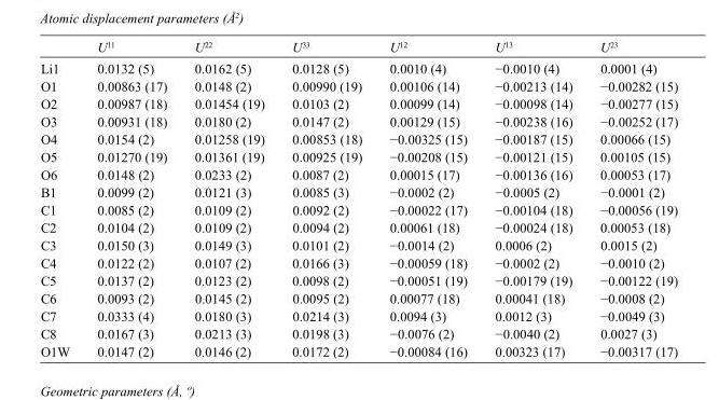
<table><thead><tr><td></td><td>U<sup>11</sup></td><td>U<sup>22</sup></td><td>U<sup>33</sup></td><td>U<sup>12</sup></td><td>U<sup>13</sup></td><td>U<sup>23</sup></td></tr></thead><tbody><tr><td>Li1</td><td>0.0132 (5)</td><td>0.0162 (5)</td><td>0.0128 (5)</td><td>0.0010 (4)</td><td>−0.0010 (4)</td><td>0.0001 (4)</td></tr><tr><td>O1</td><td>0.00863 (17)</td><td>0.0148 (2)</td><td>0.00990 (19)</td><td>0.00106 (14)</td><td>−0.00213 (14)</td><td>−0.00282 (15)</td></tr><tr><td>O2</td><td>0.00987 (18)</td><td>0.01454 (19)</td><td>0.0103 (2)</td><td>0.00099 (14)</td><td>−0.00098 (14)</td><td>−0.00277 (15)</td></tr><tr><td>O3</td><td>0.00931 (18)</td><td>0.0180 (2)</td><td>0.0147 (2)</td><td>0.00129 (15)</td><td>−0.00238 (16)</td><td>−0.00252 (17)</td></tr><tr><td>O4</td><td>0.0154 (2)</td><td>0.01258 (19)</td><td>0.00853 (18)</td><td>−0.00325 (15)</td><td>−0.00187 (15)</td><td>0.00066 (15)</td></tr><tr><td>O5</td><td>0.01270 (19)</td><td>0.01361 (19)</td><td>0.00925 (19)</td><td>−0.00208 (15)</td><td>−0.00121 (15)</td><td>0.00105 (15)</td></tr><tr><td>O6</td><td>0.0148 (2)</td><td>0.0233 (2)</td><td>0.0087 (2)</td><td>0.00015 (17)</td><td>−0.00136 (16)</td><td>0.00053 (17)</td></tr><tr><td>B1</td><td>0.0099 (2)</td><td>0.0121 (3)</td><td>0.0085 (3)</td><td>−0.0002 (2)</td><td>−0.0005 (2)</td><td>−0.0001 (2)</td></tr><tr><td>C1</td><td>0.0085 (2)</td><td>0.0109 (2)</td><td>0.0092 (2)</td><td>−0.00022 (17)</td><td>−0.00104 (18)</td><td>−0.00056 (19)</td></tr><tr><td>C2</td><td>0.0104 (2)</td><td>0.0109 (2)</td><td>0.0094 (2)</td><td>0.00061 (18)</td><td>−0.00024 (18)</td><td>0.00053 (18)</td></tr><tr><td>C3</td><td>0.0150 (3)</td><td>0.0149 (3)</td><td>0.0101 (2)</td><td>−0.0014 (2)</td><td>0.0006 (2)</td><td>0.0015 (2)</td></tr><tr><td>C4</td><td>0.0122 (2)</td><td>0.0107 (2)</td><td>0.0166 (3)</td><td>−0.00059 (18)</td><td>−0.0002 (2)</td><td>−0.0010 (2)</td></tr><tr><td>C5</td><td>0.0137 (2)</td><td>0.0123 (2)</td><td>0.0098 (2)</td><td>−0.00051 (19)</td><td>−0.00179 (19)</td><td>−0.00122 (19)</td></tr><tr><td>C6</td><td>0.0093 (2)</td><td>0.0145 (2)</td><td>0.0095 (2)</td><td>0.00077 (18)</td><td>0.00041 (18)</td><td>−0.0008 (2)</td></tr><tr><td>C7</td><td>0.0333 (4)</td><td>0.0180 (3)</td><td>0.0214 (3)</td><td>0.0094 (3)</td><td>0.0012 (3)</td><td>−0.0049 (3)</td></tr><tr><td>C8</td><td>0.0167 (3)</td><td>0.0213 (3)</td><td>0.0198 (3)</td><td>−0.0076 (2)</td><td>−0.0040 (2)</td><td>0.0027 (3)</td></tr><tr><td>O1W</td><td>0.0147 (2)</td><td>0.0146 (2)</td><td>0.0172 (2)</td><td>−0.00084 (16)</td><td>0.00323 (17)</td><td>−0.00317 (17)</td></tr></tbody></table>